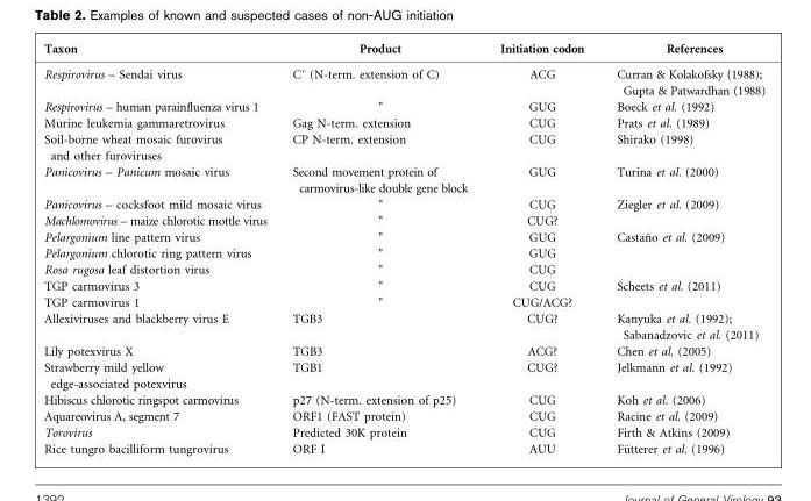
<table><thead><tr><td>Taxon</td><td>Product</td><td>Initiation codon</td><td>References</td></tr></thead><tbody><tr><td>Respirovirus – Sendai virus</td><td>C′ (N-term. extension of C)</td><td>ACG</td><td>Curran &amp; Kolakofsky (1988); Gupta &amp; Patwardhan (1988)</td></tr><tr><td>Respirovirus – human parainfluenza virus 1</td><td>&quot;</td><td>GUG</td><td>Boeck et al. (1992)</td></tr><tr><td>Murine leukemia gammaretrovirus</td><td>Gag N-term. extension</td><td>CUG</td><td>Prats et al. (1989)</td></tr><tr><td>Soil-borne wheat mosaic furovirus and other furoviruses</td><td>CP N-term. extension</td><td>CUG</td><td>Shirako (1998)</td></tr><tr><td>Panicovirus – Panicum mosaic virus</td><td>Second movement protein of carmovirus-like double gene block</td><td>GUG</td><td>Turina et al. (2000)</td></tr><tr><td>Panicovirus – cocksfoot mild mosaic virus</td><td>&quot;</td><td>CUG</td><td>Ziegler et al. (2009)</td></tr><tr><td>Machlomovirus – maize chlorotic mottle virus</td><td>&quot;</td><td>CUG?</td><td></td></tr><tr><td>Pelargonium line pattern virus</td><td>&quot;</td><td>GUG</td><td>Castan˜o et al. (2009)</td></tr><tr><td>Pelargonium chlorotic ring pattern virus</td><td>&quot;</td><td>GUG</td><td></td></tr><tr><td>Rosa rugosa leaf distortion virus</td><td>&quot;</td><td>CUG</td><td></td></tr><tr><td>TGP carmovirus 3</td><td>&quot;</td><td>CUG</td><td>Scheets et al. (2011)</td></tr><tr><td>TGP carmovirus 1</td><td>&quot;</td><td>CUG/ACG?</td><td></td></tr><tr><td>Allexiviruses and blackberry virus E</td><td>TGB3</td><td>CUG?</td><td>Kanyuka et al. (1992); Sabanadzovic et al. (2011)</td></tr><tr><td>Lily potexvirus X</td><td>TGB3</td><td>ACG?</td><td>Chen et al. (2005)</td></tr><tr><td>Strawberry mild yellow edge-associated potexvirus</td><td>TGB1</td><td>CUG?</td><td>Jelkmann et al. (1992)</td></tr><tr><td>Hibiscus chlorotic ringspot carmovirus</td><td>p27 (N-term. extension of p25)</td><td>CUG</td><td>Koh et al. (2006)</td></tr><tr><td>Aquareovirus A, segment 7</td><td>ORF1 (FAST protein)</td><td>CUG</td><td>Racine et al. (2009)</td></tr><tr><td>Torovirus</td><td>Predicted 30K protein</td><td>CUG</td><td>Firth &amp; Atkins (2009)</td></tr><tr><td>Rice tungro bacilliform tungrovirus</td><td>ORF I</td><td>AUU</td><td>Fu¨tterer et al. (1996)</td></tr></tbody></table>